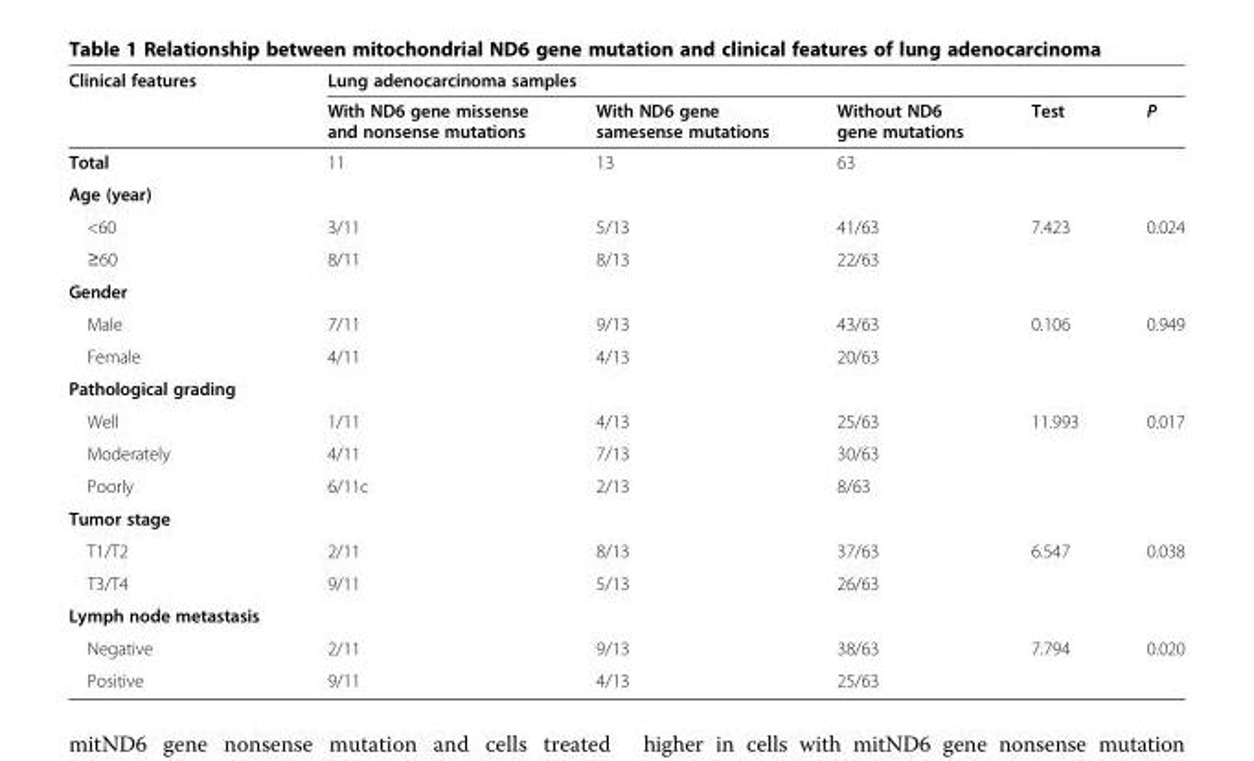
<table><thead><tr><td rowspan="2">Clinical features</td><td colspan="5">Lung adenocarcinoma samples</td></tr><tr><td>With ND6 gene missense and nonsense mutations</td><td>With ND6 gene samesense mutations</td><td>Without ND6 gene mutations</td><td>Test</td><td>P</td></tr></thead><tbody><tr><td>Total</td><td>11</td><td>13</td><td>63</td><td></td><td></td></tr><tr><td colspan="6">Age (year)</td></tr><tr><td>&lt;60</td><td>3/11</td><td>5/13</td><td>41/63</td><td>7.423</td><td>0.024</td></tr><tr><td>≥60</td><td>8/11</td><td>8/13</td><td>22/63</td><td></td><td></td></tr><tr><td colspan="6">Gender</td></tr><tr><td>Male</td><td>7/11</td><td>9/13</td><td>43/63</td><td>0.106</td><td>0.949</td></tr><tr><td>Female</td><td>4/11</td><td>4/13</td><td>20/63</td><td></td><td></td></tr><tr><td colspan="6">Pathological grading</td></tr><tr><td>Well</td><td>1/11</td><td>4/13</td><td>25/63</td><td>11.993</td><td>0.017</td></tr><tr><td>Moderately</td><td>4/11</td><td>7/13</td><td>30/63</td><td></td><td></td></tr><tr><td>Poorly</td><td>6/11c</td><td>2/13</td><td>8/63</td><td></td><td></td></tr><tr><td colspan="6">Tumor stage</td></tr><tr><td>T1/T2</td><td>2/11</td><td>8/13</td><td>37/63</td><td>6.547</td><td>0.038</td></tr><tr><td>T3/T4</td><td>9/11</td><td>5/13</td><td>26/63</td><td></td><td></td></tr><tr><td colspan="6">Lymph node metastasis</td></tr><tr><td>Negative</td><td>2/11</td><td>9/13</td><td>38/63</td><td>7.794</td><td>0.020</td></tr><tr><td>Positive</td><td>9/11</td><td>4/13</td><td>25/63</td><td></td><td></td></tr></tbody></table>